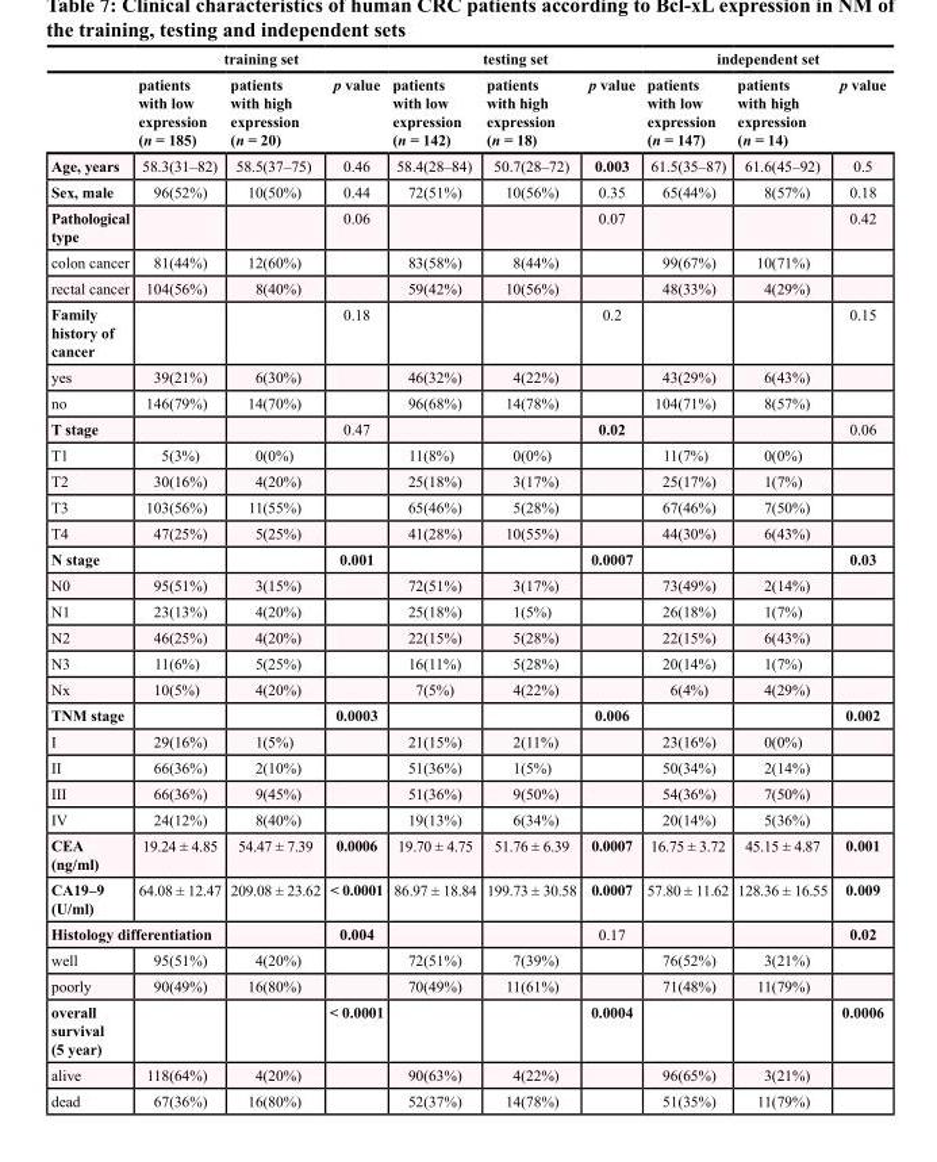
<table><thead><tr><td rowspan="2"></td><td colspan="3">training set</td><td colspan="3">testing set</td><td colspan="3">independent set</td></tr><tr><td>patients with low expression (n = 185)</td><td>patients with high expression (n = 20)</td><td>p value</td><td>patients with low expression (n = 142)</td><td>patients with high expression (n = 18)</td><td>p value</td><td>patients with low expression (n = 147)</td><td>patients with high expression (n = 14)</td><td>p value</td></tr></thead><tbody><tr><td>Age, years</td><td>58.3(31–82)</td><td>58.5(37–75)</td><td>0.46</td><td>58.4(28–84)</td><td>50.7(28–72)</td><td>0.003</td><td>61.5(35–87)</td><td>61.6(45–92)</td><td>0.5</td></tr><tr><td>Sex, male</td><td>96(52%)</td><td>10(50%)</td><td>0.44</td><td>72(51%)</td><td>10(56%)</td><td>0.35</td><td>65(44%)</td><td>8(57%)</td><td>0.18</td></tr><tr><td>Pathological type</td><td></td><td></td><td>0.06</td><td></td><td></td><td>0.07</td><td></td><td></td><td>0.42</td></tr><tr><td>colon cancer</td><td>81(44%)</td><td>12(60%)</td><td></td><td>83(58%)</td><td>8(44%)</td><td></td><td>99(67%)</td><td>10(71%)</td><td></td></tr><tr><td>rectal cancer</td><td>104(56%)</td><td>8(40%)</td><td></td><td>59(42%)</td><td>10(56%)</td><td></td><td>48(33%)</td><td>4(29%)</td><td></td></tr><tr><td>Family history of cancer</td><td></td><td></td><td>0.18</td><td></td><td></td><td>0.2</td><td></td><td></td><td>0.15</td></tr><tr><td>yes</td><td>39(21%)</td><td>6(30%)</td><td></td><td>46(32%)</td><td>4(22%)</td><td></td><td>43(29%)</td><td>6(43%)</td><td></td></tr><tr><td>no</td><td>146(79%)</td><td>14(70%)</td><td></td><td>96(68%)</td><td>14(78%)</td><td></td><td>104(71%)</td><td>8(57%)</td><td></td></tr><tr><td>T stage</td><td></td><td></td><td>0.47</td><td></td><td></td><td>0.02</td><td></td><td></td><td>0.06</td></tr><tr><td>T1</td><td>5(3%)</td><td>0(0%)</td><td></td><td>11(8%)</td><td>0(0%)</td><td></td><td>11(7%)</td><td>0(0%)</td><td></td></tr><tr><td>T2</td><td>30(16%)</td><td>4(20%)</td><td></td><td>25(18%)</td><td>3(17%)</td><td></td><td>25(17%)</td><td>1(7%)</td><td></td></tr><tr><td>T3</td><td>103(56%)</td><td>11(55%)</td><td></td><td>65(46%)</td><td>5(28%)</td><td></td><td>67(46%)</td><td>7(50%)</td><td></td></tr><tr><td>T4</td><td>47(25%)</td><td>5(25%)</td><td></td><td>41(28%)</td><td>10(55%)</td><td></td><td>44(30%)</td><td>6(43%)</td><td></td></tr><tr><td>N stage</td><td></td><td></td><td>0.001</td><td></td><td></td><td>0.0007</td><td></td><td></td><td>0.03</td></tr><tr><td>N0</td><td>95(51%)</td><td>3(15%)</td><td></td><td>72(51%)</td><td>3(17%)</td><td></td><td>73(49%)</td><td>2(14%)</td><td></td></tr><tr><td>N1</td><td>23(13%)</td><td>4(20%)</td><td></td><td>25(18%)</td><td>1(5%)</td><td></td><td>26(18%)</td><td>1(7%)</td><td></td></tr><tr><td>N2</td><td>46(25%)</td><td>4(20%)</td><td></td><td>22(15%)</td><td>5(28%)</td><td></td><td>22(15%)</td><td>6(43%)</td><td></td></tr><tr><td>N3</td><td>11(6%)</td><td>5(25%)</td><td></td><td>16(11%)</td><td>5(28%)</td><td></td><td>20(14%)</td><td>1(7%)</td><td></td></tr><tr><td>Nx</td><td>10(5%)</td><td>4(20%)</td><td></td><td>7(5%)</td><td>4(22%)</td><td></td><td>6(4%)</td><td>4(29%)</td><td></td></tr><tr><td>TNM stage</td><td></td><td></td><td>0.0003</td><td></td><td></td><td>0.006</td><td></td><td></td><td>0.002</td></tr><tr><td>I</td><td>29(16%)</td><td>1(5%)</td><td></td><td>21(15%)</td><td>2(11%)</td><td></td><td>23(16%)</td><td>0(0%)</td><td></td></tr><tr><td>II</td><td>66(36%)</td><td>2(10%)</td><td></td><td>51(36%)</td><td>1(5%)</td><td></td><td>50(34%)</td><td>2(14%)</td><td></td></tr><tr><td>III</td><td>66(36%)</td><td>9(45%)</td><td></td><td>51(36%)</td><td>9(50%)</td><td></td><td>54(36%)</td><td>7(50%)</td><td></td></tr><tr><td>IV</td><td>24(12%)</td><td>8(40%)</td><td></td><td>19(13%)</td><td>6(34%)</td><td></td><td>20(14%)</td><td>5(36%)</td><td></td></tr><tr><td>CEA (ng/ml)</td><td>19.24 ± 4.85</td><td>54.47 ± 7.39</td><td>0.0006</td><td>19.70 ± 4.75</td><td>51.76 ± 6.39</td><td>0.0007</td><td>16.75 ± 3.72</td><td>45.15 ± 4.87</td><td>0.001</td></tr><tr><td>CA19–9 (U/ml)</td><td>64.08 ± 12.47</td><td>209.08 ± 23.62</td><td>&lt; 0.0001</td><td>86.97 ± 18.84</td><td>199.73 ± 30.58</td><td>0.0007</td><td>57.80 ± 11.62</td><td>128.36 ± 16.55</td><td>0.009</td></tr><tr><td colspan="2">Histology differentiation</td><td></td><td>0.004</td><td></td><td></td><td>0.17</td><td></td><td></td><td>0.02</td></tr><tr><td>well</td><td>95(51%)</td><td>4(20%)</td><td></td><td>72(51%)</td><td>7(39%)</td><td></td><td>76(52%)</td><td>3(21%)</td><td></td></tr><tr><td>poorly</td><td>90(49%)</td><td>16(80%)</td><td></td><td>70(49%)</td><td>11(61%)</td><td></td><td>71(48%)</td><td>11(79%)</td><td></td></tr><tr><td>overall survival (5 year)</td><td></td><td></td><td>&lt; 0.0001</td><td></td><td></td><td>0.0004</td><td></td><td></td><td>0.0006</td></tr><tr><td>alive</td><td>118(64%)</td><td>4(20%)</td><td></td><td>90(63%)</td><td>4(22%)</td><td></td><td>96(65%)</td><td>3(21%)</td><td></td></tr><tr><td>dead</td><td>67(36%)</td><td>16(80%)</td><td></td><td>52(37%)</td><td>14(78%)</td><td></td><td>51(35%)</td><td>11(79%)</td><td></td></tr></tbody></table>